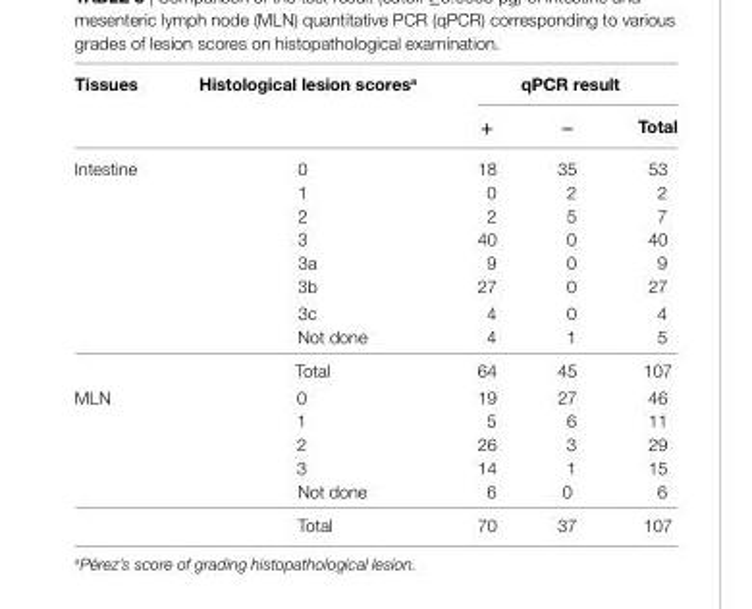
<table><thead><tr><td rowspan="2">Tissues</td><td rowspan="2">histological lesion scores<sup>a</sup></td><td colspan="3">qPcr result</td></tr><tr><td>+</td><td>−</td><td>Total</td></tr></thead><tbody><tr><td rowspan="9">Intestine</td><td>0</td><td>18</td><td>35</td><td>53</td></tr><tr><td>1</td><td>0</td><td>2</td><td>2</td></tr><tr><td>2</td><td>2</td><td>5</td><td>7</td></tr><tr><td>3</td><td>40</td><td>0</td><td>40</td></tr><tr><td>3a</td><td>9</td><td>0</td><td>9</td></tr><tr><td>3b</td><td>27</td><td>0</td><td>27</td></tr><tr><td>3c</td><td>4</td><td>0</td><td>4</td></tr><tr><td>Not done</td><td>4</td><td>1</td><td>5</td></tr><tr><td>Total</td><td>64</td><td>45</td><td>107</td></tr><tr><td rowspan="6">MLN</td><td>0</td><td>19</td><td>27</td><td>46</td></tr><tr><td>1</td><td>5</td><td>6</td><td>11</td></tr><tr><td>2</td><td>26</td><td>3</td><td>29</td></tr><tr><td>3</td><td>14</td><td>1</td><td>15</td></tr><tr><td>Not done</td><td>6</td><td>0</td><td>6</td></tr><tr><td>Total</td><td>70</td><td>37</td><td>107</td></tr></tbody></table>